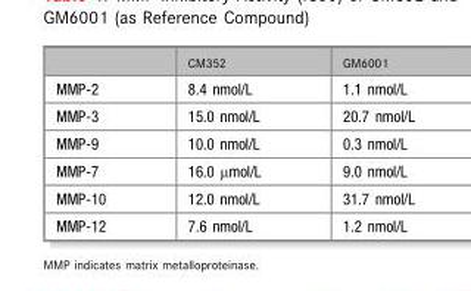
<table><thead><tr><td></td><td>CM352</td><td>GM6001</td></tr></thead><tbody><tr><td>MMP-2</td><td>8.4 nmol/L</td><td>1.1 nmol/L</td></tr><tr><td>MMP-3</td><td>15.0 nmol/L</td><td>20.7 nmol/L</td></tr><tr><td>MMP-9</td><td>10.0 nmol/L</td><td>0.3 nmol/L</td></tr><tr><td>MMP-7</td><td>16.0 μmol/L</td><td>9.0 nmol/L</td></tr><tr><td>MMP-10</td><td>12.0 nmol/L</td><td>31.7 nmol/L</td></tr><tr><td>MMP-12</td><td>7.6 nmol/L</td><td>1.2 nmol/L</td></tr></tbody></table>